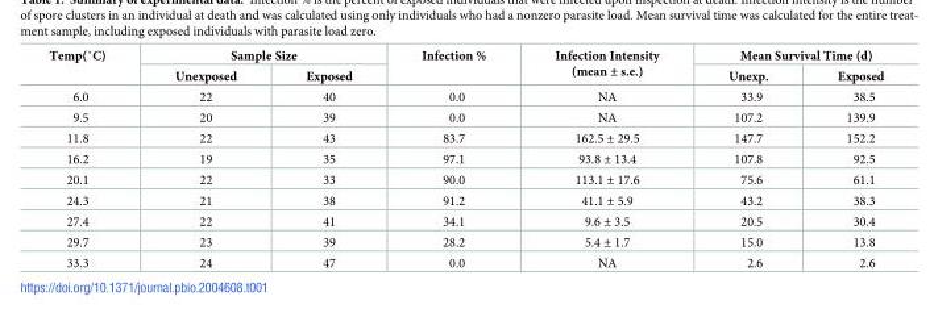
<table><thead><tr><td rowspan="2">Temp(˚C)</td><td colspan="2">Sample Size</td><td rowspan="2">Infection %</td><td rowspan="2">Infection Intensity (mean ± s.e.)</td><td colspan="2">Mean Survival Time (d)</td></tr><tr><td>Unexposed</td><td>Exposed</td><td>Unexp.</td><td>Exposed</td></tr></thead><tbody><tr><td>6.0</td><td>22</td><td>40</td><td>0.0</td><td>NA</td><td>33.9</td><td>38.5</td></tr><tr><td>9.5</td><td>20</td><td>39</td><td>0.0</td><td>NA</td><td>107.2</td><td>139.9</td></tr><tr><td>11.8</td><td>22</td><td>43</td><td>83.7</td><td>162.5 ± 29.5</td><td>147.7</td><td>152.2</td></tr><tr><td>16.2</td><td>19</td><td>35</td><td>97.1</td><td>93.8 ± 13.4</td><td>107.8</td><td>92.5</td></tr><tr><td>20.1</td><td>22</td><td>33</td><td>90.0</td><td>113.1 ± 17.6</td><td>75.6</td><td>61.1</td></tr><tr><td>24.3</td><td>21</td><td>38</td><td>91.2</td><td>41.1 ± 5.9</td><td>43.2</td><td>38.3</td></tr><tr><td>27.4</td><td>22</td><td>41</td><td>34.1</td><td>9.6 ± 3.5</td><td>20.5</td><td>30.4</td></tr><tr><td>29.7</td><td>23</td><td>39</td><td>28.2</td><td>5.4 ± 1.7</td><td>15.0</td><td>13.8</td></tr><tr><td>33.3</td><td>24</td><td>47</td><td>0.0</td><td>NA</td><td>2.6</td><td>2.6</td></tr></tbody></table>